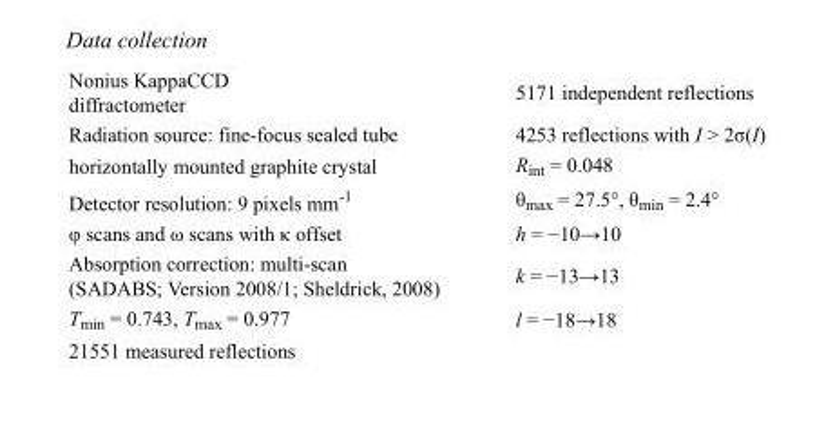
<table><tbody><tr><td>Nonius KappaCCD diffractometer</td><td>5171 independent reflections</td></tr><tr><td>Radiation source: fine-focus sealed tube</td><td>4253 reflections with I &gt; 2σ(I)</td></tr><tr><td>horizontally mounted graphite crystal</td><td>R<sub>int</sub> = 0.048</td></tr><tr><td>Detector resolution: 9 pixels mm<sup>-1</sup></td><td>θ<sub>max</sub> = 27.5°, θ<sub>min</sub> = 2.4°</td></tr><tr><td>φ scans and ω scans with κ offset</td><td>h = −10→10</td></tr><tr><td>Absorption correction: multi-scan (SADABS; Version 2008/1; Sheldrick, 2008)</td><td>k = −13→13</td></tr><tr><td>T<sub>min</sub> = 0.743, T<sub>max</sub> = 0.977</td><td>l = −18→18</td></tr><tr><td>21551 measured reflections</td><td></td></tr></tbody></table>